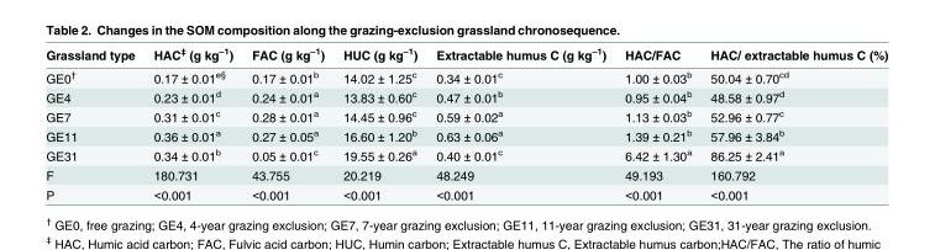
<table><thead><tr><td>Grassland type</td><td>HAC<sup>‡</sup> (g kg<sup>–1</sup>)</td><td>FAC (g kg<sup>–1</sup>)</td><td>HUC (g kg<sup>–1</sup>)</td><td>Extractable humus C (g kg<sup>–1</sup>)</td><td>HAC/FAC</td><td>HAC/ extractable humus C (%)</td></tr></thead><tbody><tr><td>GE0<sup>†</sup></td><td>0.17 ± 0.01<sup>e§</sup></td><td>0.17 ± 0.01<sup>b</sup></td><td>14.02 ± 1.25<sup>c</sup></td><td>0.34 ± 0.01<sup>c</sup></td><td>1.00 ± 0.03<sup>b</sup></td><td>50.04 ± 0.70<sup>cd</sup></td></tr><tr><td>GE4</td><td>0.23 ± 0.01<sup>d</sup></td><td>0.24 ± 0.01<sup>a</sup></td><td>13.83 ± 0.60<sup>c</sup></td><td>0.47 ± 0.01<sup>b</sup></td><td>0.95 ± 0.04<sup>b</sup></td><td>48.58 ± 0.97<sup>d</sup></td></tr><tr><td>GE7</td><td>0.31 ± 0.01<sup>c</sup></td><td>0.28 ± 0.01<sup>a</sup></td><td>14.45 ± 0.96<sup>c</sup></td><td>0.59 ± 0.02<sup>a</sup></td><td>1.13 ± 0.03<sup>b</sup></td><td>52.96 ± 0.77<sup>c</sup></td></tr><tr><td>GE11</td><td>0.36 ± 0.01<sup>a</sup></td><td>0.27 ± 0.05<sup>a</sup></td><td>16.60 ± 1.20<sup>b</sup></td><td>0.63 ± 0.06<sup>a</sup></td><td>1.39 ± 0.21<sup>b</sup></td><td>57.96 ± 3.84<sup>b</sup></td></tr><tr><td>GE31</td><td>0.34 ± 0.01<sup>b</sup></td><td>0.05 ± 0.01<sup>c</sup></td><td>19.55 ± 0.26<sup>a</sup></td><td>0.40 ± 0.01<sup>c</sup></td><td>6.42 ± 1.30<sup>a</sup></td><td>86.25 ± 2.41<sup>a</sup></td></tr><tr><td>F</td><td>180.731</td><td>43.755</td><td>20.219</td><td>48.249</td><td>49.193</td><td>160.792</td></tr><tr><td>P</td><td>&lt;0.001</td><td>&lt;0.001</td><td>&lt;0.001</td><td>&lt;0.001</td><td>&lt;0.001</td><td>&lt;0.001</td></tr></tbody></table>